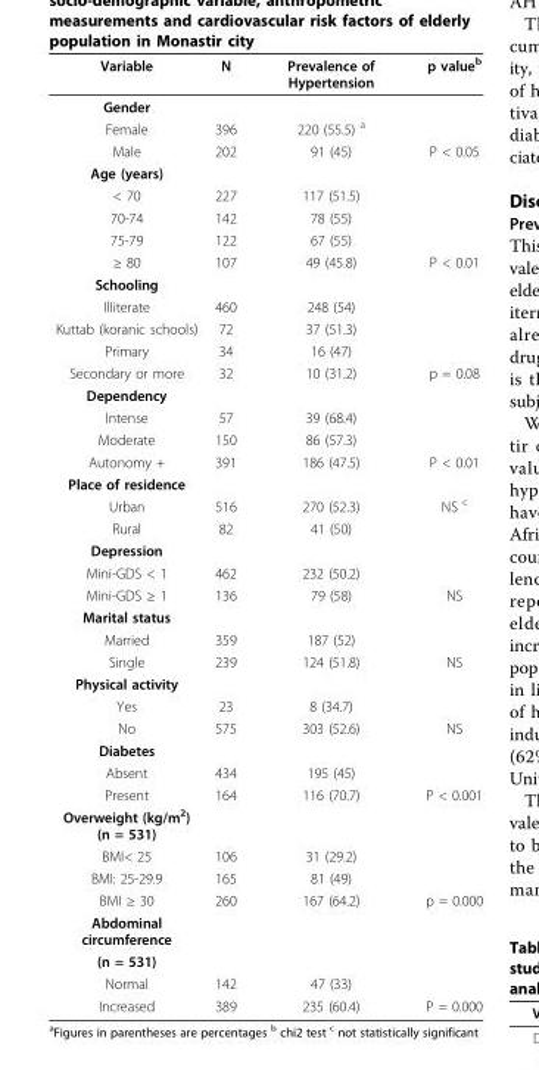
<table><thead><tr><td>Variable</td><td>N</td><td>Prevalence of Hypertension</td><td>p value<sup>b</sup></td></tr></thead><tbody><tr><td colspan="4">Gender</td></tr><tr><td>Female</td><td>396</td><td>220 (55.5) <sup>a</sup></td><td></td></tr><tr><td>Male</td><td>202</td><td>91 (45)</td><td>P &lt; 0.05</td></tr><tr><td colspan="4">Age (years)</td></tr><tr><td>&lt; 70</td><td>227</td><td>117 (51.5)</td><td></td></tr><tr><td>70-74</td><td>142</td><td>78 (55)</td><td></td></tr><tr><td>75-79</td><td>122</td><td>67 (55)</td><td></td></tr><tr><td>≥ 80</td><td>107</td><td>49 (45.8)</td><td>P &lt; 0.01</td></tr><tr><td colspan="4">Schooling</td></tr><tr><td>Illiterate</td><td>460</td><td>248 (54)</td><td></td></tr><tr><td>Kuttab (koranic schools)</td><td>72</td><td>37 (51.3)</td><td></td></tr><tr><td>Primary</td><td>34</td><td>16 (47)</td><td></td></tr><tr><td>Secondary or more</td><td>32</td><td>10 (31.2)</td><td>p = 0.08</td></tr><tr><td colspan="4">Dependency</td></tr><tr><td>Intense</td><td>57</td><td>39 (68.4)</td><td></td></tr><tr><td>Moderate</td><td>150</td><td>86 (57.3)</td><td></td></tr><tr><td>Autonomy +</td><td>391</td><td>186 (47.5)</td><td>P &lt; 0.01</td></tr><tr><td colspan="4">Place of residence</td></tr><tr><td>Urban</td><td>516</td><td>270 (52.3)</td><td>NS <sup>c</sup></td></tr><tr><td>Rural</td><td>82</td><td>41 (50)</td><td></td></tr><tr><td colspan="4">Depression</td></tr><tr><td>Mini-GDS &lt; 1</td><td>462</td><td>232 (50.2)</td><td></td></tr><tr><td>Mini-GDS ≥ 1</td><td>136</td><td>79 (58)</td><td>NS</td></tr><tr><td colspan="4">Marital status</td></tr><tr><td>Married</td><td>359</td><td>187 (52)</td><td></td></tr><tr><td>Single</td><td>239</td><td>124 (51.8)</td><td>NS</td></tr><tr><td colspan="4">Physical activity</td></tr><tr><td>Yes</td><td>23</td><td>8 (34.7)</td><td></td></tr><tr><td>No</td><td>575</td><td>303 (52.6)</td><td>NS</td></tr><tr><td colspan="4">Diabetes</td></tr><tr><td>Absent</td><td>434</td><td>195 (45)</td><td></td></tr><tr><td>Present</td><td>164</td><td>116 (70.7)</td><td>P &lt; 0.001</td></tr><tr><td colspan="4">Overweight (kg/m<sup>2</sup>) (n = 531)</td></tr><tr><td>BMI&lt; 25</td><td>106</td><td>31 (29.2)</td><td></td></tr><tr><td>BMI: 25-29.9</td><td>165</td><td>81 (49)</td><td></td></tr><tr><td>BMI ≥ 30</td><td>260</td><td>167 (64.2)</td><td>p = 0.000</td></tr><tr><td colspan="4">Abdominal circumference</td></tr><tr><td colspan="4">(n = 531)</td></tr><tr><td>Normal</td><td>142</td><td>47 (33)</td><td></td></tr><tr><td>Increased</td><td>389</td><td>235 (60.4)</td><td>P = 0.000</td></tr></tbody></table>